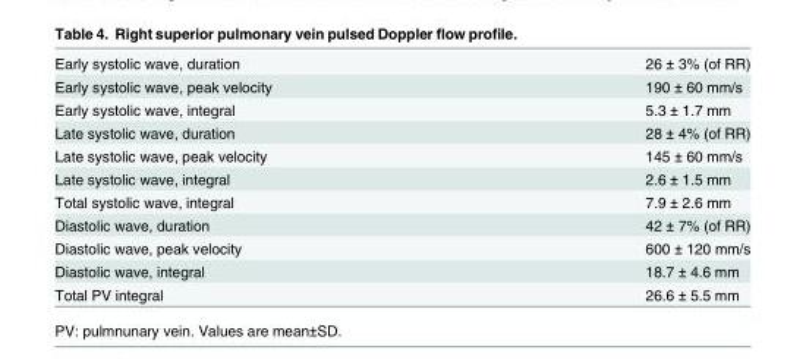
<table><tbody><tr><td>Early systolic wave, duration</td><td>26 ± 3% (of RR)</td></tr><tr><td>Early systolic wave, peak velocity</td><td>190 ± 60 mm/s</td></tr><tr><td>Early systolic wave, integral</td><td>5.3 ± 1.7 mm</td></tr><tr><td>Late systolic wave, duration</td><td>28 ± 4% (of RR)</td></tr><tr><td>Late systolic wave, peak velocity</td><td>145 ± 60 mm/s</td></tr><tr><td>Late systolic wave, integral</td><td>2.6 ± 1.5 mm</td></tr><tr><td>Total systolic wave, integral</td><td>7.9 ± 2.6 mm</td></tr><tr><td>Diastolic wave, duration</td><td>42 ± 7% (of RR)</td></tr><tr><td>Diastolic wave, peak velocity</td><td>600 ± 120 mm/s</td></tr><tr><td>Diastolic wave, integral</td><td>18.7 ± 4.6 mm</td></tr><tr><td>Total PV integral</td><td>26.6 ± 5.5 mm</td></tr></tbody></table>